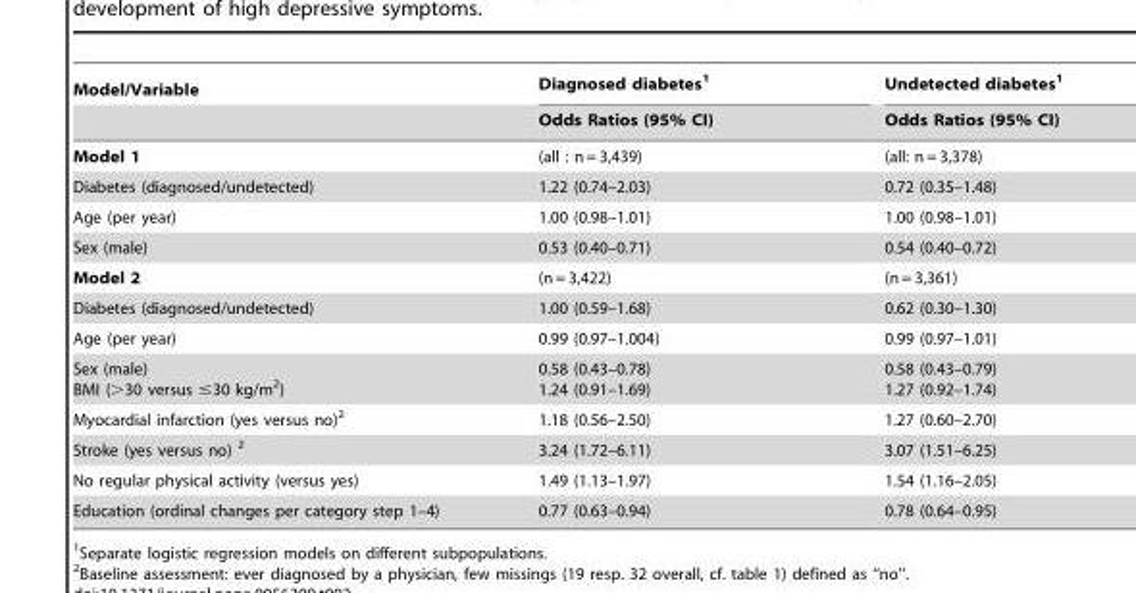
<table><thead><tr><td rowspan="2">Model/Variable</td><td rowspan="2">Diagnosed diabetes<sup>1</sup> Odds Ratios (95% CI)</td><td rowspan="2">Undetected diabetes<sup>1</sup> Odds Ratios (95% CI)</td></tr><tr></tr></thead><tbody><tr><td>Model 1</td><td>(all : n = 3,439)</td><td>(all: n = 3,378)</td></tr><tr><td>Diabetes (diagnosed/undetected)</td><td>1.22 (0.74–2.03)</td><td>0.72 (0.35–1.48)</td></tr><tr><td>Age (per year)</td><td>1.00 (0.98–1.01)</td><td>1.00 (0.98–1.01)</td></tr><tr><td>Sex (male)</td><td>0.53 (0.40–0.71)</td><td>0.54 (0.40–0.72)</td></tr><tr><td>Model 2</td><td>(n = 3,422)</td><td>(n = 3,361)</td></tr><tr><td>Diabetes (diagnosed/undetected)</td><td>1.00 (0.59–1.68)</td><td>0.62 (0.30–1.30)</td></tr><tr><td>Age (per year)</td><td>0.99 (0.97–1.004)</td><td>0.99 (0.97–1.01)</td></tr><tr><td>Sex (male) BMI (&gt;30 versus ≤30 kg/m<sup>2</sup>)</td><td>0.58 (0.43–0.78) 1.24 (0.91–1.69)</td><td>0.58 (0.43–0.79) 1.27 (0.92–1.74)</td></tr><tr><td>Myocardial infarction (yes versus no)<sup>2</sup></td><td>1.18 (0.56–2.50)</td><td>1.27 (0.60–2.70)</td></tr><tr><td>Stroke (yes versus no) <sup>2</sup></td><td>3.24 (1.72–6.11)</td><td>3.07 (1.51–6.25)</td></tr><tr><td>No regular physical activity (versus yes)</td><td>1.49 (1.13–1.97)</td><td>1.54 (1.16–2.05)</td></tr><tr><td>Education (ordinal changes per category step 1–4)</td><td>0.77 (0.63–0.94)</td><td>0.78 (0.64–0.95)</td></tr></tbody></table>